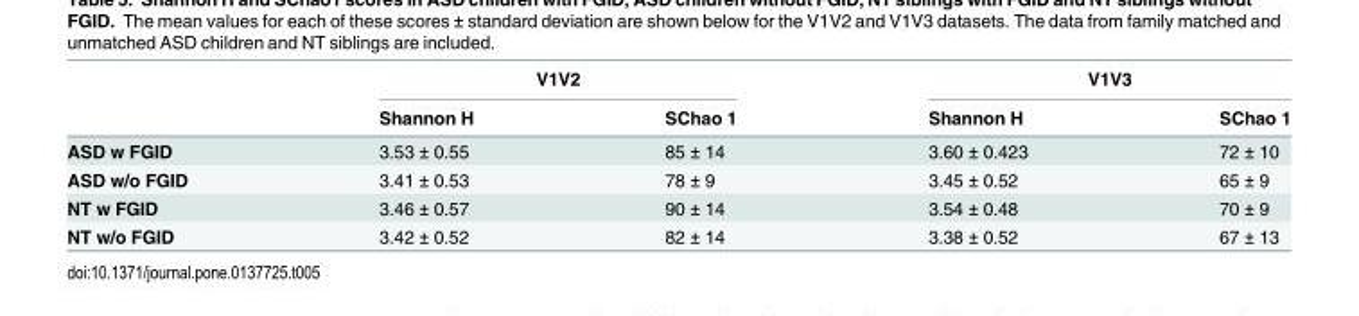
<table><thead><tr><td rowspan="2"></td><td colspan="2">V1V2</td><td colspan="2">V1V3</td></tr><tr><td>Shannon H</td><td>SChao 1</td><td>Shannon H</td><td>SChao 1</td></tr></thead><tbody><tr><td>ASD w FGID</td><td>3.53 ± 0.55</td><td>85 ± 14</td><td>3.60 ± 0.423</td><td>72 ± 10</td></tr><tr><td>ASD w/o FGID</td><td>3.41 ± 0.53</td><td>78 ± 9</td><td>3.45 ± 0.52</td><td>65 ± 9</td></tr><tr><td>NT w FGID</td><td>3.46 ± 0.57</td><td>90 ± 14</td><td>3.54 ± 0.48</td><td>70 ± 9</td></tr><tr><td>NT w/o FGID</td><td>3.42 ± 0.52</td><td>82 ± 14</td><td>3.38 ± 0.52</td><td>67 ± 13</td></tr></tbody></table>